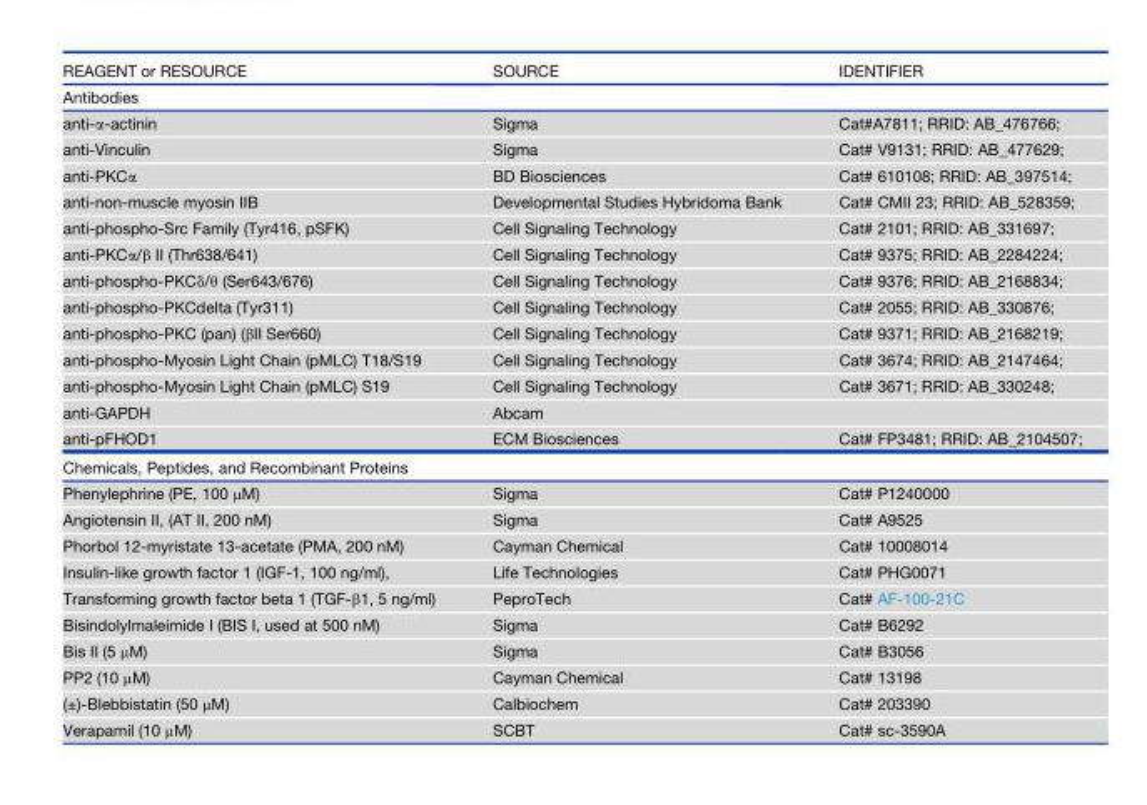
<table><thead><tr><td>REAGENT or RESOURCE</td><td>SOURCE</td><td>IDENTIFIER</td></tr></thead><tbody><tr><td colspan="3">Antibodies</td></tr><tr><td>anti-α-actinin</td><td>Sigma</td><td>Cat#A7811; RRID: AB_476766;</td></tr><tr><td>anti-Vinculin</td><td>Sigma</td><td>Cat# V9131; RRID: AB_477629;</td></tr><tr><td>anti-PKCα</td><td>BD Biosciences</td><td>Cat# 610108; RRID: AB_397514;</td></tr><tr><td>anti-non-muscle myosin IIB</td><td>Developmental Studies Hybridoma Bank</td><td>Cat# CMII 23; RRID: AB_528359;</td></tr><tr><td>anti-phospho-Src Family (Tyr416, pSFK)</td><td>Cell Signaling Technology</td><td>Cat# 2101; RRID: AB_331697;</td></tr><tr><td>anti-PKCα/β II (Thr638/641)</td><td>Cell Signaling Technology</td><td>Cat# 9375; RRID: AB_2284224;</td></tr><tr><td>anti-phospho-PKCδ/θ (Ser643/676)</td><td>Cell Signaling Technology</td><td>Cat# 9376; RRID: AB_2168834;</td></tr><tr><td>anti-phospho-PKCdelta (Tyr311)</td><td>Cell Signaling Technology</td><td>Cat# 2055; RRID: AB_330876;</td></tr><tr><td>anti-phospho-PKC (pan) (βII Ser660)</td><td>Cell Signaling Technology</td><td>Cat# 9371; RRID: AB_2168219;</td></tr><tr><td>anti-phospho-Myosin Light Chain (pMLC) T18/S19</td><td>Cell Signaling Technology</td><td>Cat# 3674; RRID: AB_2147464;</td></tr><tr><td>anti-phospho-Myosin Light Chain (pMLC) S19</td><td>Cell Signaling Technology</td><td>Cat# 3671; RRID: AB_330248;</td></tr><tr><td>anti-GAPDH</td><td>Abcam</td><td></td></tr><tr><td>anti-pFHOD1</td><td>ECM Biosciences</td><td>Cat# FP3481; RRID: AB_2104507;</td></tr><tr><td colspan="3">Chemicals, Peptides, and Recombinant Proteins</td></tr><tr><td>Phenylephrine (PE, 100 μM)</td><td>Sigma</td><td>Cat# P1240000</td></tr><tr><td>Angiotensin II, (AT II, 200 nM)</td><td>Sigma</td><td>Cat# A9525</td></tr><tr><td>Phorbol 12-myristate 13-acetate (PMA, 200 nM)</td><td>Cayman Chemical</td><td>Cat# 10008014</td></tr><tr><td>Insulin-like growth factor 1 (IGF-1, 100 ng/ml),</td><td>Life Technologies</td><td>Cat# PHG0071</td></tr><tr><td>Transforming growth factor beta 1 (TGF-β1, 5 ng/ml)</td><td>PeproTech</td><td>Cat# AF-100-21C</td></tr><tr><td>Bisindolylmaleimide I (BIS I, used at 500 nM)</td><td>Sigma</td><td>Cat# B6292</td></tr><tr><td>Bis II (5 μM)</td><td>Sigma</td><td>Cat# B3056</td></tr><tr><td>PP2 (10 μM)</td><td>Cayman Chemical</td><td>Cat# 13198</td></tr><tr><td>(±)-Blebbistatin (50 μM)</td><td>Calbiochem</td><td>Cat# 203390</td></tr><tr><td>Verapamil (10 μM)</td><td>SCBT</td><td>Cat# sc-3590A</td></tr></tbody></table>